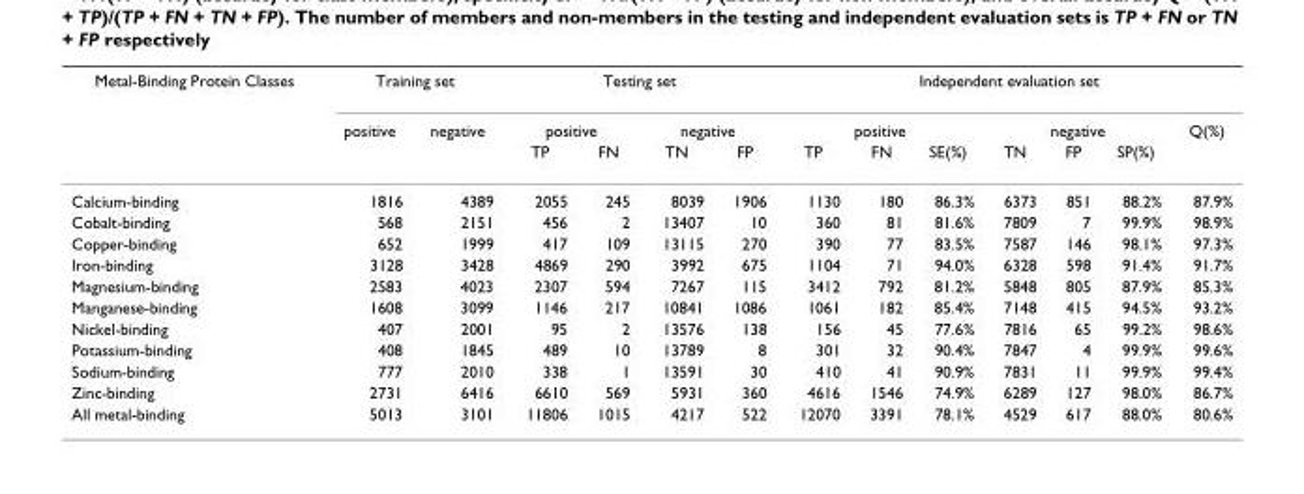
<table><thead><tr><td rowspan="3">Metal-Binding Protein Classes</td><td colspan="2">Training set</td><td colspan="4">Testing set</td><td colspan="7">Independent evaluation set</td></tr><tr><td rowspan="2">positive</td><td rowspan="2">negative</td><td colspan="2">positive</td><td colspan="2">negative</td><td colspan="3">positive</td><td colspan="3">negative</td><td rowspan="2">Q(%)</td></tr><tr><td>TP</td><td>FN</td><td>TN</td><td>FP</td><td>TP</td><td>FN</td><td>SE(%)</td><td>TN</td><td>FP</td><td>SP(%)</td></tr></thead><tbody><tr><td>Calcium-binding</td><td>1816</td><td>4389</td><td>2055</td><td>245</td><td>8039</td><td>1906</td><td>1130</td><td>180</td><td>86.3%</td><td>6373</td><td>851</td><td>88.2%</td><td>87.9%</td></tr><tr><td>Cobalt-binding</td><td>568</td><td>2151</td><td>456</td><td>2</td><td>13407</td><td>10</td><td>360</td><td>81</td><td>81.6%</td><td>7809</td><td>7</td><td>99.9%</td><td>98.9%</td></tr><tr><td>Copper-binding</td><td>652</td><td>1999</td><td>417</td><td>109</td><td>13115</td><td>270</td><td>390</td><td>77</td><td>83.5%</td><td>7587</td><td>146</td><td>98.1%</td><td>97.3%</td></tr><tr><td>Iron-binding</td><td>3128</td><td>3428</td><td>4869</td><td>290</td><td>3992</td><td>675</td><td>1104</td><td>71</td><td>94.0%</td><td>6328</td><td>598</td><td>91.4%</td><td>91.7%</td></tr><tr><td>Magnesium-binding</td><td>2583</td><td>4023</td><td>2307</td><td>594</td><td>7267</td><td>115</td><td>3412</td><td>792</td><td>81.2%</td><td>5848</td><td>805</td><td>87.9%</td><td>85.3%</td></tr><tr><td>Manganese-binding</td><td>1608</td><td>3099</td><td>1146</td><td>217</td><td>10841</td><td>1086</td><td>1061</td><td>182</td><td>85.4%</td><td>7148</td><td>415</td><td>94.5%</td><td>93.2%</td></tr><tr><td>Nickel-binding</td><td>407</td><td>2001</td><td>95</td><td>2</td><td>13576</td><td>138</td><td>156</td><td>45</td><td>77.6%</td><td>7816</td><td>65</td><td>99.2%</td><td>98.6%</td></tr><tr><td>Potassium-binding</td><td>408</td><td>1845</td><td>489</td><td>10</td><td>13789</td><td>8</td><td>301</td><td>32</td><td>90.4%</td><td>7847</td><td>4</td><td>99.9%</td><td>99.6%</td></tr><tr><td>Sodium-binding</td><td>777</td><td>2010</td><td>338</td><td>1</td><td>13591</td><td>30</td><td>410</td><td>41</td><td>90.9%</td><td>7831</td><td>11</td><td>99.9%</td><td>99.4%</td></tr><tr><td>Zinc-binding</td><td>2731</td><td>6416</td><td>6610</td><td>569</td><td>5931</td><td>360</td><td>4616</td><td>1546</td><td>74.9%</td><td>6289</td><td>127</td><td>98.0%</td><td>86.7%</td></tr><tr><td>All metal-binding</td><td>5013</td><td>3101</td><td>11806</td><td>1015</td><td>4217</td><td>522</td><td>12070</td><td>3391</td><td>78.1%</td><td>4529</td><td>617</td><td>88.0%</td><td>80.6%</td></tr></tbody></table>